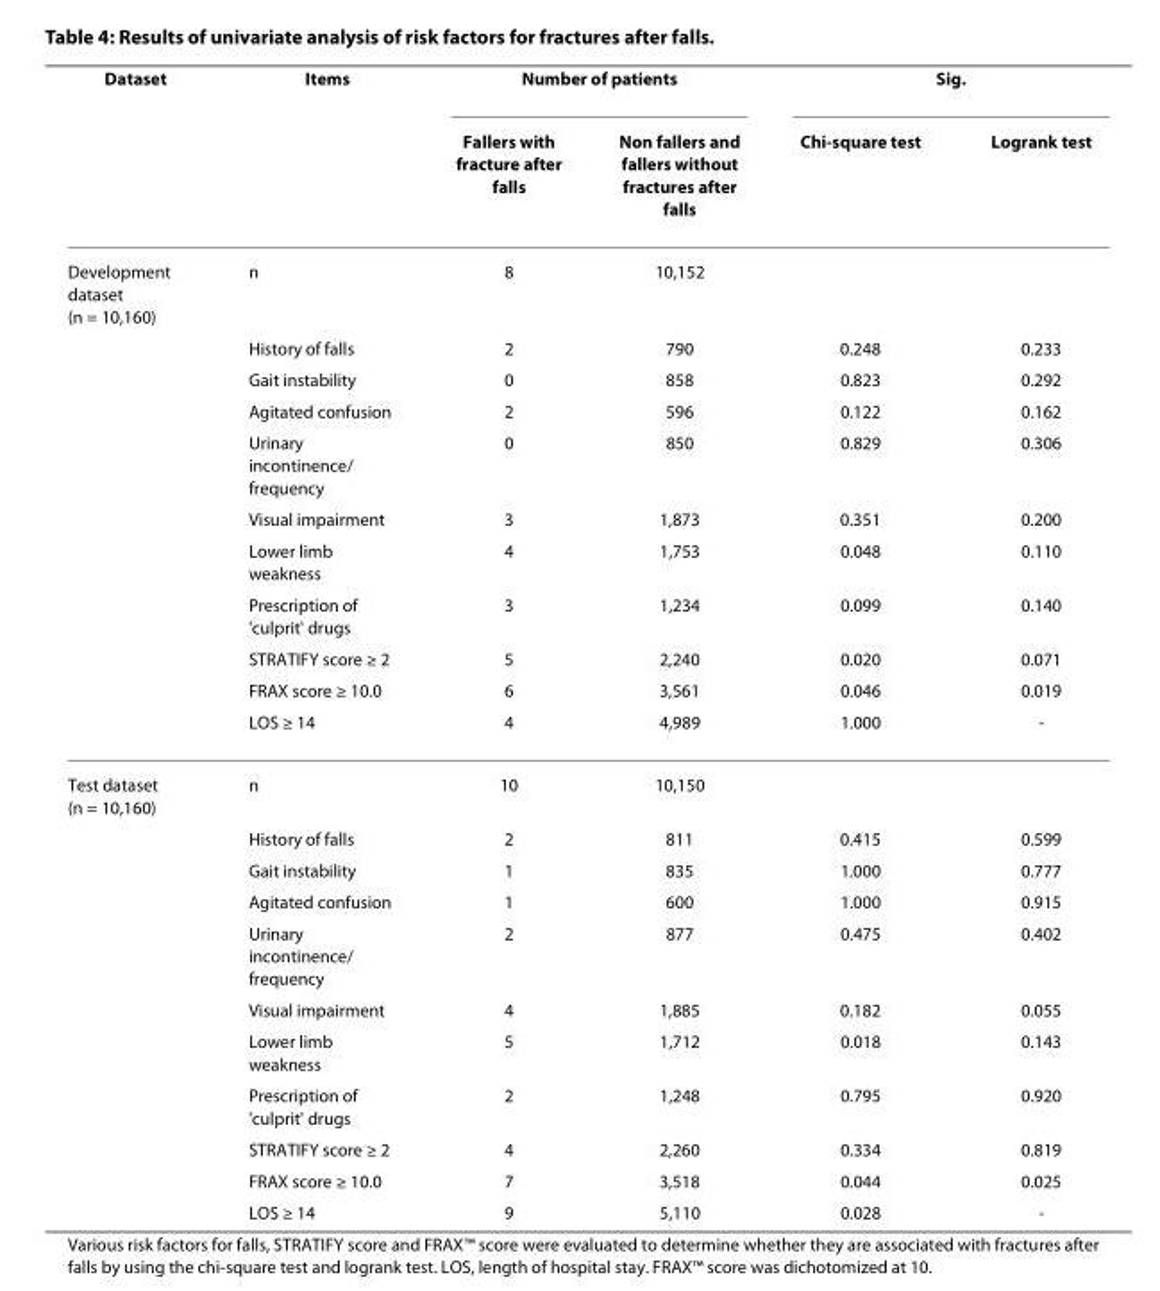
<table><thead><tr><td rowspan="2">Dataset</td><td rowspan="2">Items</td><td colspan="2">Number of patients</td><td colspan="2">Sig.</td></tr><tr><td>Fallers with fracture after falls</td><td>Non fallers and fallers without fractures after falls</td><td>Chi-square test</td><td>Logrank test</td></tr></thead><tbody><tr><td rowspan="11">Development dataset (n = 10,160)</td><td>n</td><td>8</td><td>10,152</td><td></td><td></td></tr><tr><td>History of falls</td><td>2</td><td>790</td><td>0.248</td><td>0.233</td></tr><tr><td>Gait instability</td><td>0</td><td>858</td><td>0.823</td><td>0.292</td></tr><tr><td>Agitated confusion</td><td>2</td><td>596</td><td>0.122</td><td>0.162</td></tr><tr><td>Urinary incontinence/ frequency</td><td>0</td><td>850</td><td>0.829</td><td>0.306</td></tr><tr><td>Visual impairment</td><td>3</td><td>1,873</td><td>0.351</td><td>0.200</td></tr><tr><td>Lower limb weakness</td><td>4</td><td>1,753</td><td>0.048</td><td>0.110</td></tr><tr><td>Prescription of &#x27;culprit&#x27; drugs</td><td>3</td><td>1,234</td><td>0.099</td><td>0.140</td></tr><tr><td>STRATIFY score ≥ 2</td><td>5</td><td>2,240</td><td>0.020</td><td>0.071</td></tr><tr><td>FRAX score ≥ 10.0</td><td>6</td><td>3,561</td><td>0.046</td><td>0.019</td></tr><tr><td>LOS ≥ 14</td><td>4</td><td>4,989</td><td>1.000</td><td>-</td></tr><tr><td rowspan="11">Test dataset (n = 10,160)</td><td>n</td><td>10</td><td>10,150</td><td></td><td></td></tr><tr><td>History of falls</td><td>2</td><td>811</td><td>0.415</td><td>0.599</td></tr><tr><td>Gait instability</td><td>1</td><td>835</td><td>1.000</td><td>0.777</td></tr><tr><td>Agitated confusion</td><td>1</td><td>600</td><td>1.000</td><td>0.915</td></tr><tr><td>Urinary incontinence/ frequency</td><td>2</td><td>877</td><td>0.475</td><td>0.402</td></tr><tr><td>Visual impairment</td><td>4</td><td>1,885</td><td>0.182</td><td>0.055</td></tr><tr><td>Lower limb weakness</td><td>5</td><td>1,712</td><td>0.018</td><td>0.143</td></tr><tr><td>Prescription of &#x27;culprit&#x27; drugs</td><td>2</td><td>1,248</td><td>0.795</td><td>0.920</td></tr><tr><td>STRATIFY score ≥ 2</td><td>4</td><td>2,260</td><td>0.334</td><td>0.819</td></tr><tr><td>FRAX score ≥ 10.0</td><td>7</td><td>3,518</td><td>0.044</td><td>0.025</td></tr><tr><td>LOS ≥ 14</td><td>9</td><td>5,110</td><td>0.028</td><td>-</td></tr></tbody></table>